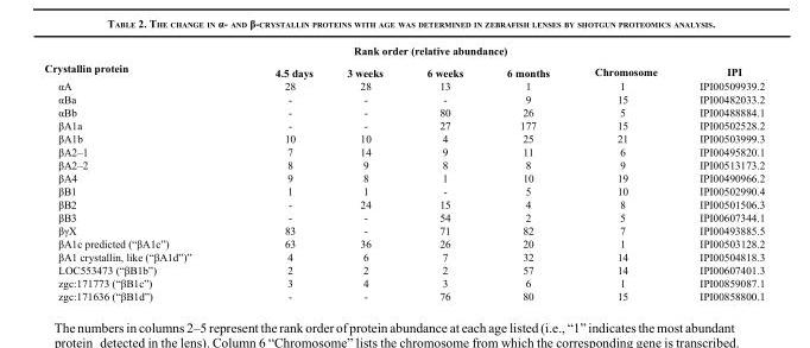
<table><tbody><tr><td rowspan="2">Crystallin protein</td><td colspan="4">Rank order (relative abundance)</td><td rowspan="2">Chromosome</td><td rowspan="2">IPI</td></tr><tr><td>4.5 days</td><td>3 weeks</td><td>6 weeks</td><td>6 months</td></tr><tr><td>αA</td><td>28</td><td>28</td><td>13</td><td>1</td><td>1</td><td>IPI00509939.2</td></tr><tr><td>αBa</td><td>-</td><td>-</td><td>-</td><td>9</td><td>15</td><td>IPI00482033.2</td></tr><tr><td>αBb</td><td>-</td><td>-</td><td>80</td><td>26</td><td>5</td><td>IPI00488884.1</td></tr><tr><td>βA1a</td><td>-</td><td>-</td><td>27</td><td>177</td><td>15</td><td>IPI00502528.2</td></tr><tr><td>βA1b</td><td>10</td><td>10</td><td>4</td><td>25</td><td>21</td><td>IPI00503999.3</td></tr><tr><td>βA2–1</td><td>7</td><td>14</td><td>9</td><td>11</td><td>6</td><td>IPI00495820.1</td></tr><tr><td>βA2–2</td><td>8</td><td>9</td><td>8</td><td>8</td><td>9</td><td>IPI00513173.2</td></tr><tr><td>βA4</td><td>9</td><td>8</td><td>1</td><td>10</td><td>19</td><td>IPI00490966.2</td></tr><tr><td>βB1</td><td>1</td><td>1</td><td>-</td><td>5</td><td>10</td><td>IPI00502990.4</td></tr><tr><td>βB2</td><td>-</td><td>24</td><td>15</td><td>4</td><td>8</td><td>IPI00501506.3</td></tr><tr><td>βB3</td><td>-</td><td>-</td><td>54</td><td>2</td><td>5</td><td>IPI00607344.1</td></tr><tr><td>βγX</td><td>83</td><td>-</td><td>71</td><td>82</td><td>7</td><td>IPI00493885.5</td></tr><tr><td>βA1c predicted (“βA1c”)</td><td>63</td><td>36</td><td>26</td><td>20</td><td>1</td><td>IPI00503128.2</td></tr><tr><td>βA1 crystallin, like (“βA1d”)”</td><td>4</td><td>6</td><td>7</td><td>32</td><td>14</td><td>IPI00504818.3</td></tr><tr><td>LOC553473 (“βB1b”)</td><td>2</td><td>2</td><td>2</td><td>57</td><td>14</td><td>IPI00607401.3</td></tr><tr><td>zgc:171773 (“βB1c”)</td><td>3</td><td>4</td><td>3</td><td>6</td><td>1</td><td>IPI00859087.1</td></tr><tr><td>zgc:171636 (“βB1d”)</td><td>-</td><td>-</td><td>76</td><td>80</td><td>15</td><td>IPI00858800.1</td></tr></tbody></table>